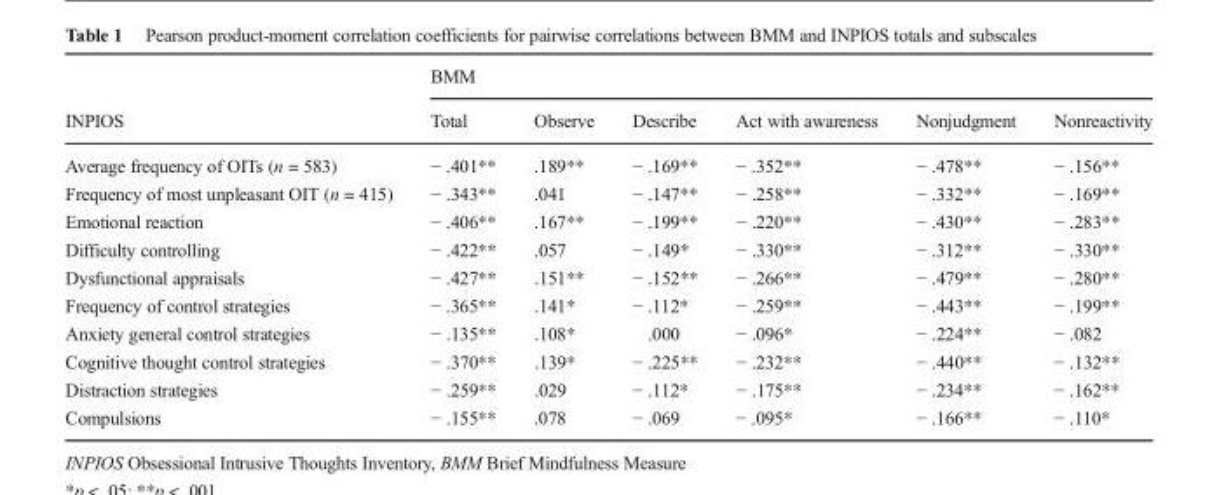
<table><thead><tr><td rowspan="2">INPIOS</td><td colspan="6">BMM</td></tr><tr><td>Total</td><td>Observe</td><td>Describe</td><td>Act with awareness</td><td>Nonjudgment</td><td>Nonreactivity</td></tr></thead><tbody><tr><td>Average frequency of OITs (n = 583)</td><td>− .401**</td><td>.189**</td><td>− .169**</td><td>− .352**</td><td>− .478**</td><td>− .156**</td></tr><tr><td>Frequency of most unpleasant OIT (n = 415)</td><td>− .343**</td><td>.041</td><td>− .147**</td><td>− .258**</td><td>− .332**</td><td>− .169**</td></tr><tr><td>Emotional reaction</td><td>− .406**</td><td>.167**</td><td>− .199**</td><td>− .220**</td><td>− .430**</td><td>− .283**</td></tr><tr><td>Difficulty controlling</td><td>− .422**</td><td>.057</td><td>− .149*</td><td>− .330**</td><td>− .312**</td><td>− .330**</td></tr><tr><td>Dysfunctional appraisals</td><td>− .427**</td><td>.151**</td><td>− .152**</td><td>− .266**</td><td>− .479**</td><td>− .280**</td></tr><tr><td>Frequency of control strategies</td><td>− .365**</td><td>.141*</td><td>− .112*</td><td>− .259**</td><td>− .443**</td><td>− .199**</td></tr><tr><td>Anxiety general control strategies</td><td>− .135**</td><td>.108*</td><td>.000</td><td>− .096*</td><td>− .224**</td><td>− .082</td></tr><tr><td>Cognitive thought control strategies</td><td>− .370**</td><td>.139*</td><td>− .225**</td><td>− .232**</td><td>− .440**</td><td>− .132**</td></tr><tr><td>Distraction strategies</td><td>− .259**</td><td>.029</td><td>− .112*</td><td>− .175**</td><td>− .234**</td><td>− .162**</td></tr><tr><td>Compulsions</td><td>− .155**</td><td>.078</td><td>− .069</td><td>− .095*</td><td>− .166**</td><td>− .110*</td></tr></tbody></table>